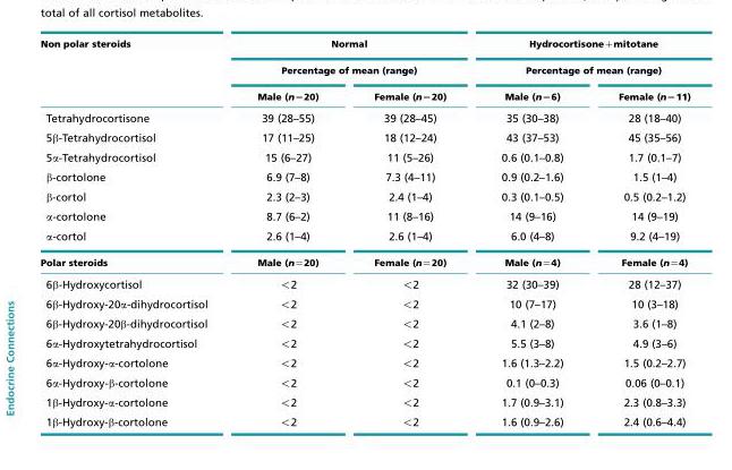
<table><thead><tr><td rowspan="3">Non polar steroids</td><td rowspan="2" colspan="2">Normal Percentage of mean (range)</td><td rowspan="2" colspan="2">Hydrocortisone+mitotane Percentage of mean (range)</td></tr><tr></tr><tr><td>Male (n=20)</td><td>Female (n=20)</td><td>Male (n=6)</td><td>Female (n=11)</td></tr></thead><tbody><tr><td>Tetrahydrocortisone</td><td>39 (28–55)</td><td>39 (28–45)</td><td>35 (30–38)</td><td>28 (18–40)</td></tr><tr><td>5β-Tetrahydrocortisol</td><td>17 (11–25)</td><td>18 (12–24)</td><td>43 (37–53)</td><td>45 (35–56)</td></tr><tr><td>5α-Tetrahydrocortisol</td><td>15 (6–27)</td><td>11 (5–26)</td><td>0.6 (0.1–0.8)</td><td>1.7 (0.1–7)</td></tr><tr><td>β-cortolone</td><td>6.9 (7–8)</td><td>7.3 (4–11)</td><td>0.9 (0.2–1.6)</td><td>1.5 (1–4)</td></tr><tr><td>β-cortol</td><td>2.3 (2–3)</td><td>2.4 (1–4)</td><td>0.3 (0.1–0.5)</td><td>0.5 (0.2–1.2)</td></tr><tr><td>α-cortolone</td><td>8.7 (6–2)</td><td>11 (8–16)</td><td>14 (9–16)</td><td>14 (9–19)</td></tr><tr><td>α-cortol</td><td>2.6 (1–4)</td><td>2.6 (1–4)</td><td>6.0 (4–8)</td><td>9.2 (4–19)</td></tr><tr><td>Polar steroids</td><td>Male (n=20)</td><td>Female (n=20)</td><td>Male (n=4)</td><td>Female (n=4)</td></tr><tr><td>6β-Hydroxycortisol</td><td>&lt;2</td><td>&lt;2</td><td>32 (30–39)</td><td>28 (12–37)</td></tr><tr><td>6β-Hydroxy-20α-dihydrocortisol</td><td>&lt;2</td><td>&lt;2</td><td>10 (7–17)</td><td>10 (3–18)</td></tr><tr><td>6β-Hydroxy-20β-dihydrocortisol</td><td>&lt;2</td><td>&lt;2</td><td>4.1 (2–8)</td><td>3.6 (1–8)</td></tr><tr><td>6α-Hydroxytetrahydrocortisol</td><td>&lt;2</td><td>&lt;2</td><td>5.5 (3–8)</td><td>4.9 (3–6)</td></tr><tr><td>6α-Hydroxy-α-cortolone</td><td>&lt;2</td><td>&lt;2</td><td>1.6 (1.3–2.2)</td><td>1.5 (0.2–2.7)</td></tr><tr><td>6α-Hydroxy-β-cortolone</td><td>&lt;2</td><td>&lt;2</td><td>0.1 (0–0.3)</td><td>0.06 (0–0.1)</td></tr><tr><td>1β-Hydroxy-α-cortolone</td><td>&lt;2</td><td>&lt;2</td><td>1.7 (0.9–3.1)</td><td>2.3 (0.8–3.3)</td></tr><tr><td>1β-Hydroxy-β-cortolone</td><td>&lt;2</td><td>&lt;2</td><td>1.6 (0.9–2.6)</td><td>2.4 (0.6–4.4)</td></tr></tbody></table>